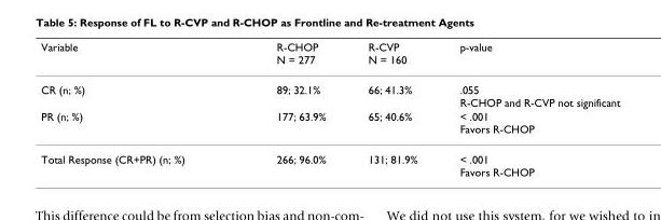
<table><thead><tr><td>Variable</td><td>R-CHOP N = 277</td><td>R-CVP N = 160</td><td>p-value</td></tr></thead><tbody><tr><td>CR (n; %)</td><td>89; 32.1%</td><td>66; 41.3%</td><td>.055 R-CHOP and R-CVP not significant</td></tr><tr><td>PR (n; %)</td><td>177; 63.9%</td><td>65; 40.6%</td><td>&lt; .001 Favors R-CHOP</td></tr><tr><td>Total Response (CR+PR) (n; %)</td><td>266; 96.0%</td><td>131; 81.9%</td><td>&lt; .001 Favors R-CHOP</td></tr></tbody></table>